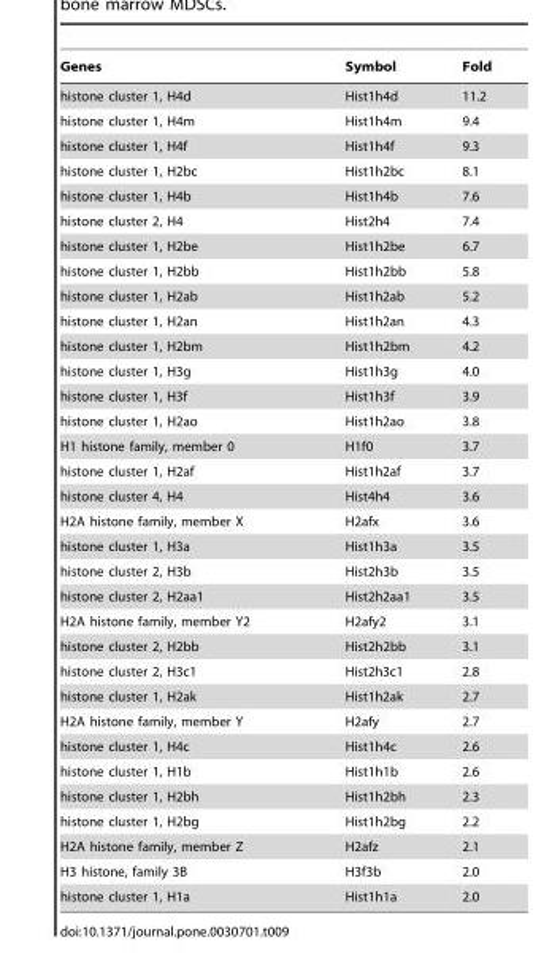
<table><thead><tr><td>Genes</td><td>Symbol</td><td>Fold</td></tr></thead><tbody><tr><td>histone cluster 1, H4d</td><td>Hist1h4d</td><td>11.2</td></tr><tr><td>histone cluster 1, H4m</td><td>Hist1h4m</td><td>9.4</td></tr><tr><td>histone cluster 1, H4f</td><td>Hist1h4f</td><td>9.3</td></tr><tr><td>histone cluster 1, H2bc</td><td>Hist1h2bc</td><td>8.1</td></tr><tr><td>histone cluster 1, H4b</td><td>Hist1h4b</td><td>7.6</td></tr><tr><td>histone cluster 2, H4</td><td>Hist2h4</td><td>7.4</td></tr><tr><td>histone cluster 1, H2be</td><td>Hist1h2be</td><td>6.7</td></tr><tr><td>histone cluster 1, H2bb</td><td>Hist1h2bb</td><td>5.8</td></tr><tr><td>histone cluster 1, H2ab</td><td>Hist1h2ab</td><td>5.2</td></tr><tr><td>histone cluster 1, H2an</td><td>Hist1h2an</td><td>4.3</td></tr><tr><td>histone cluster 1, H2bm</td><td>Hist1h2bm</td><td>4.2</td></tr><tr><td>histone cluster 1, H3g</td><td>Hist1h3g</td><td>4.0</td></tr><tr><td>histone cluster 1, H3f</td><td>Hist1h3f</td><td>3.9</td></tr><tr><td>histone cluster 1, H2ao</td><td>Hist1h2ao</td><td>3.8</td></tr><tr><td>H1 histone family, member 0</td><td>H1f0</td><td>3.7</td></tr><tr><td>histone cluster 1, H2af</td><td>Hist1h2af</td><td>3.7</td></tr><tr><td>histone cluster 4, H4</td><td>Hist4h4</td><td>3.6</td></tr><tr><td>H2A histone family, member X</td><td>H2afx</td><td>3.6</td></tr><tr><td>histone cluster 1, H3a</td><td>Hist1h3a</td><td>3.5</td></tr><tr><td>histone cluster 2, H3b</td><td>Hist2h3b</td><td>3.5</td></tr><tr><td>histone cluster 2, H2aa1</td><td>Hist2h2aa1</td><td>3.5</td></tr><tr><td>H2A histone family, member Y2</td><td>H2afy2</td><td>3.1</td></tr><tr><td>histone cluster 2, H2bb</td><td>Hist2h2bb</td><td>3.1</td></tr><tr><td>histone cluster 2, H3c1</td><td>Hist2h3c1</td><td>2.8</td></tr><tr><td>histone cluster 1, H2ak</td><td>Hist1h2ak</td><td>2.7</td></tr><tr><td>H2A histone family, member Y</td><td>H2afy</td><td>2.7</td></tr><tr><td>histone cluster 1, H4c</td><td>Hist1h4c</td><td>2.6</td></tr><tr><td>histone cluster 1, H1b</td><td>Hist1h1b</td><td>2.6</td></tr><tr><td>histone cluster 1, H2bh</td><td>Hist1h2bh</td><td>2.3</td></tr><tr><td>histone cluster 1, H2bg</td><td>Hist1h2bg</td><td>2.2</td></tr><tr><td>H2A histone family, member Z</td><td>H2afz</td><td>2.1</td></tr><tr><td>H3 histone, family 3B</td><td>H3f3b</td><td>2.0</td></tr><tr><td>histone cluster 1, H1a</td><td>Hist1h1a</td><td>2.0</td></tr></tbody></table>